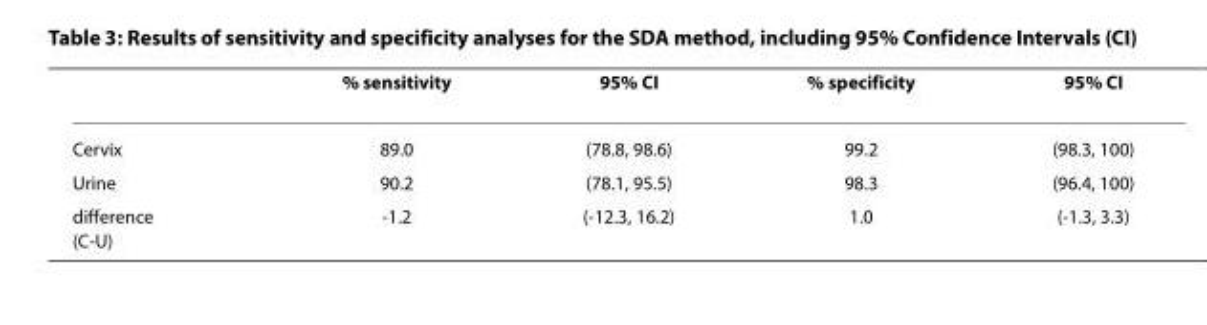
<table><thead><tr><td></td><td>% sensitivity</td><td>95% CI</td><td>% specificity</td><td>95% CI</td></tr></thead><tbody><tr><td>Cervix</td><td>89.0</td><td>(78.8, 98.6)</td><td>99.2</td><td>(98.3, 100)</td></tr><tr><td>Urine</td><td>90.2</td><td>(78.1, 95.5)</td><td>98.3</td><td>(96.4, 100)</td></tr><tr><td>difference (C-U)</td><td>-1.2</td><td>(-12.3, 16.2)</td><td>1.0</td><td>(-1.3, 3.3)</td></tr></tbody></table>